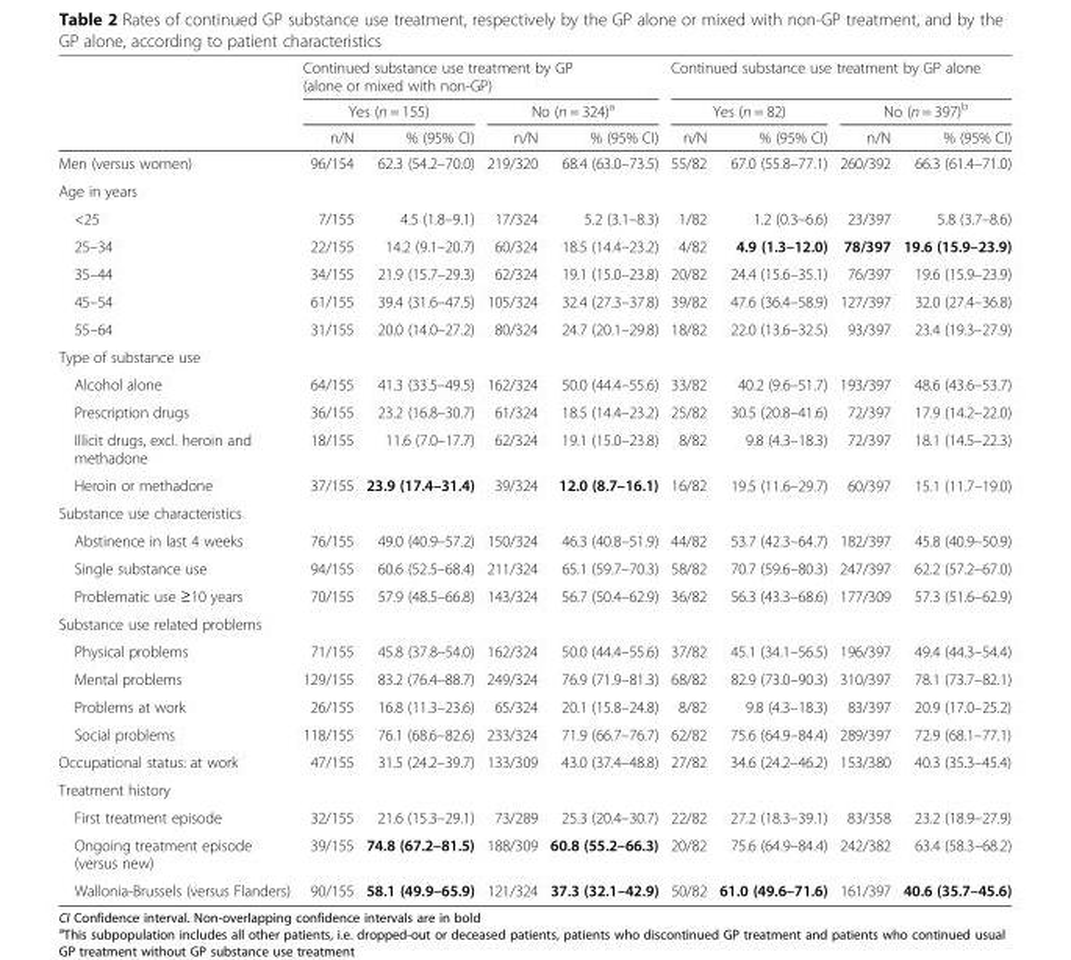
<table><thead><tr><td rowspan="3"></td><td colspan="4">Continued substance use treatment by GP (alone or mixed with non-GP)</td><td colspan="4">Continued substance use treatment by GP alone</td></tr><tr><td colspan="2">Yes (n = 155)</td><td colspan="2">No (n = 324)<sup>a</sup></td><td colspan="2">Yes (n = 82)</td><td colspan="2">No (n = 397)<sup>b</sup></td></tr><tr><td>n/N</td><td>% (95% CI)</td><td>n/N</td><td>% (95% CI)</td><td>n/N</td><td>% (95% CI)</td><td>n/N</td><td>% (95% CI)</td></tr></thead><tbody><tr><td>Men (versus women)</td><td>96/154</td><td>62.3 (54.2–70.0)</td><td>219/320</td><td>68.4 (63.0–73.5)</td><td>55/82</td><td>67.0 (55.8–77.1)</td><td>260/392</td><td>66.3 (61.4–71.0)</td></tr><tr><td colspan="9">Age in years</td></tr><tr><td>&lt;25</td><td>7/155</td><td>4.5 (1.8–9.1)</td><td>17/324</td><td>5.2 (3.1–8.3)</td><td>1/82</td><td>1.2 (0.3–6.6)</td><td>23/397</td><td>5.8 (3.7–8.6)</td></tr><tr><td>25–34</td><td>22/155</td><td>14.2 (9.1–20.7)</td><td>60/324</td><td>18.5 (14.4–23.2)</td><td>4/82</td><td>4.9 (1.3–12.0)</td><td>78/397</td><td>19.6 (15.9–23.9)</td></tr><tr><td>35–44</td><td>34/155</td><td>21.9 (15.7–29.3)</td><td>62/324</td><td>19.1 (15.0–23.8)</td><td>20/82</td><td>24.4 (15.6–35.1)</td><td>76/397</td><td>19.6 (15.9–23.9)</td></tr><tr><td>45–54</td><td>61/155</td><td>39.4 (31.6–47.5)</td><td>105/324</td><td>32.4 (27.3–37.8)</td><td>39/82</td><td>47.6 (36.4–58.9)</td><td>127/397</td><td>32.0 (27.4–36.8)</td></tr><tr><td>55–64</td><td>31/155</td><td>20.0 (14.0–27.2)</td><td>80/324</td><td>24.7 (20.1–29.8)</td><td>18/82</td><td>22.0 (13.6–32.5)</td><td>93/397</td><td>23.4 (19.3–27.9)</td></tr><tr><td colspan="9">Type of substance use</td></tr><tr><td>Alcohol alone</td><td>64/155</td><td>41.3 (33.5–49.5)</td><td>162/324</td><td>50.0 (44.4–55.6)</td><td>33/82</td><td>40.2 (9.6–51.7)</td><td>193/397</td><td>48.6 (43.6–53.7)</td></tr><tr><td>Prescription drugs</td><td>36/155</td><td>23.2 (16.8–30.7)</td><td>61/324</td><td>18.5 (14.4–23.2)</td><td>25/82</td><td>30.5 (20.8–41.6)</td><td>72/397</td><td>17.9 (14.2–22.0)</td></tr><tr><td>Illicit drugs, excl. heroin and methadone</td><td>18/155</td><td>11.6 (7.0–17.7)</td><td>62/324</td><td>19.1 (15.0–23.8)</td><td>8/82</td><td>9.8 (4.3–18.3)</td><td>72/397</td><td>18.1 (14.5–22.3)</td></tr><tr><td>Heroin or methadone</td><td>37/155</td><td>23.9 (17.4–31.4)</td><td>39/324</td><td>12.0 (8.7–16.1)</td><td>16/82</td><td>19.5 (11.6–29.7)</td><td>60/397</td><td>15.1 (11.7–19.0)</td></tr><tr><td colspan="9">Substance use characteristics</td></tr><tr><td>Abstinence in last 4 weeks</td><td>76/155</td><td>49.0 (40.9–57.2)</td><td>150/324</td><td>46.3 (40.8–51.9)</td><td>44/82</td><td>53.7 (42.3–64.7)</td><td>182/397</td><td>45.8 (40.9–50.9)</td></tr><tr><td>Single substance use</td><td>94/155</td><td>60.6 (52.5–68.4)</td><td>211/324</td><td>65.1 (59.7–70.3)</td><td>58/82</td><td>70.7 (59.6–80.3)</td><td>247/397</td><td>62.2 (57.2–67.0)</td></tr><tr><td>Problematic use ≥10 years</td><td>70/155</td><td>57.9 (48.5–66.8)</td><td>143/324</td><td>56.7 (50.4–62.9)</td><td>36/82</td><td>56.3 (43.3–68.6)</td><td>177/309</td><td>57.3 (51.6–62.9)</td></tr><tr><td colspan="9">Substance use related problems</td></tr><tr><td>Physical problems</td><td>71/155</td><td>45.8 (37.8–54.0)</td><td>162/324</td><td>50.0 (44.4–55.6)</td><td>37/82</td><td>45.1 (34.1–56.5)</td><td>196/397</td><td>49.4 (44.3–54.4)</td></tr><tr><td>Mental problems</td><td>129/155</td><td>83.2 (76.4–88.7)</td><td>249/324</td><td>76.9 (71.9–81.3)</td><td>68/82</td><td>82.9 (73.0–90.3)</td><td>310/397</td><td>78.1 (73.7–82.1)</td></tr><tr><td>Problems at work</td><td>26/155</td><td>16.8 (11.3–23.6)</td><td>65/324</td><td>20.1 (15.8–24.8)</td><td>8/82</td><td>9.8 (4.3–18.3)</td><td>83/397</td><td>20.9 (17.0–25.2)</td></tr><tr><td>Social problems</td><td>118/155</td><td>76.1 (68.6–82.6)</td><td>233/324</td><td>71.9 (66.7–76.7)</td><td>62/82</td><td>75.6 (64.9–84.4)</td><td>289/397</td><td>72.9 (68.1–77.1)</td></tr><tr><td>Occupational status: at work</td><td>47/155</td><td>31.5 (24.2–39.7)</td><td>133/309</td><td>43.0 (37.4–48.8)</td><td>27/82</td><td>34.6 (24.2–46.2)</td><td>153/380</td><td>40.3 (35.3–45.4)</td></tr><tr><td colspan="9">Treatment history</td></tr><tr><td>First treatment episode</td><td>32/155</td><td>21.6 (15.3–29.1)</td><td>73/289</td><td>25.3 (20.4–30.7)</td><td>22/82</td><td>27.2 (18.3–39.1)</td><td>83/358</td><td>23.2 (18.9–27.9)</td></tr><tr><td>Ongoing treatment episode (versus new)</td><td>39/155</td><td>74.8 (67.2–81.5)</td><td>188/309</td><td>60.8 (55.2–66.3)</td><td>20/82</td><td>75.6 (64.9–84.4)</td><td>242/382</td><td>63.4 (58.3–68.2)</td></tr><tr><td>Wallonia-Brussels (versus Flanders)</td><td>90/155</td><td>58.1 (49.9–65.9)</td><td>121/324</td><td>37.3 (32.1–42.9)</td><td>50/82</td><td>61.0 (49.6–71.6)</td><td>161/397</td><td>40.6 (35.7–45.6)</td></tr></tbody></table>